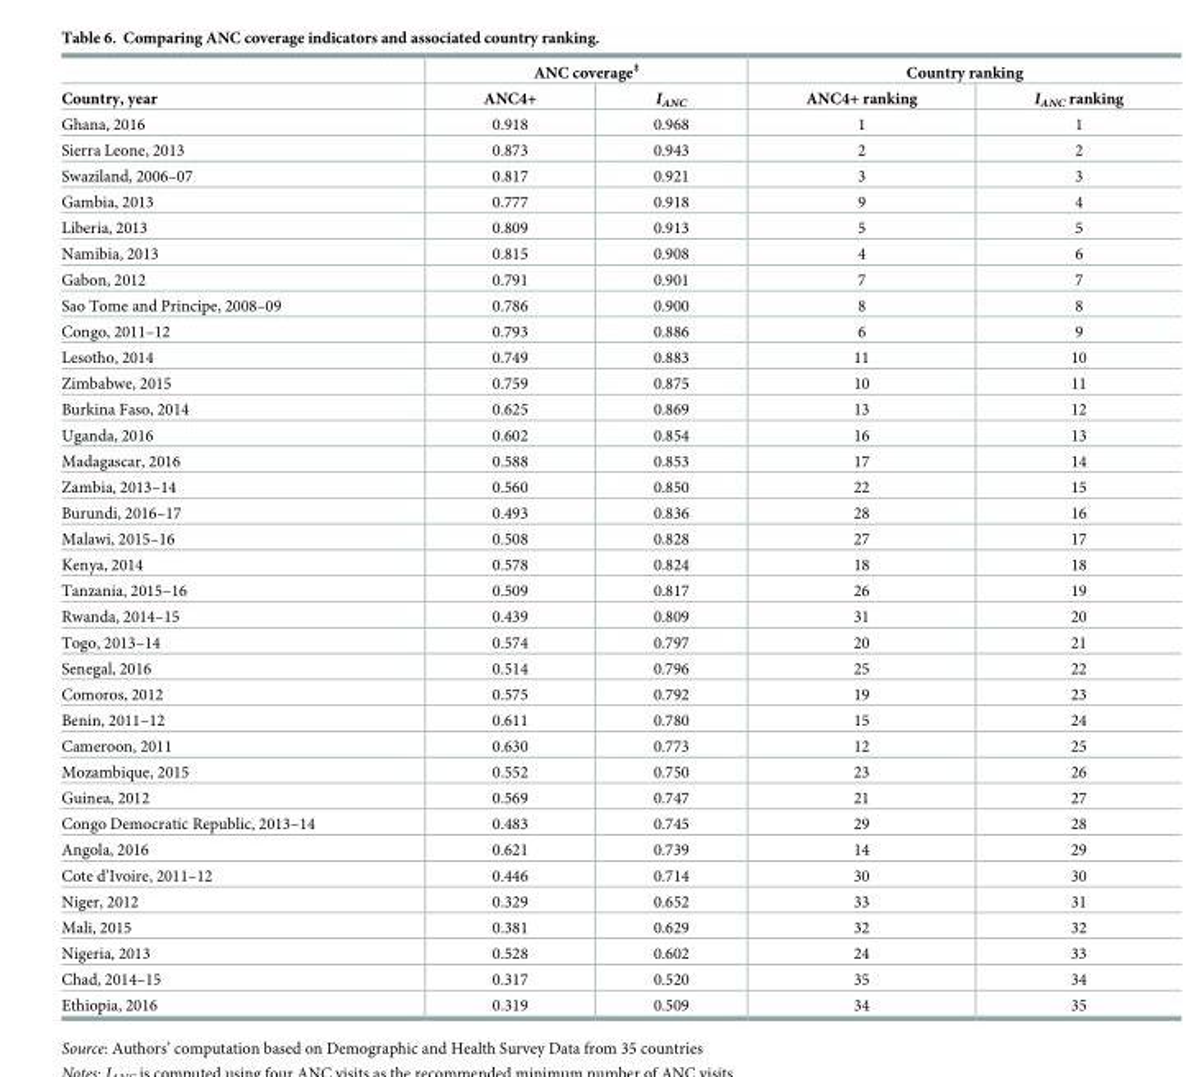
<table><thead><tr><td rowspan="2">Country, year</td><td colspan="2">ANC coverage<sup>‡</sup></td><td colspan="2">Country ranking</td></tr><tr><td>ANC4+</td><td>I<sub>ANC</sub></td><td>ANC4+ ranking</td><td>I<sub>ANC</sub> ranking</td></tr></thead><tbody><tr><td>Ghana, 2016</td><td>0.918</td><td>0.968</td><td>1</td><td>1</td></tr><tr><td>Sierra Leone, 2013</td><td>0.873</td><td>0.943</td><td>2</td><td>2</td></tr><tr><td>Swaziland, 2006–07</td><td>0.817</td><td>0.921</td><td>3</td><td>3</td></tr><tr><td>Gambia, 2013</td><td>0.777</td><td>0.918</td><td>9</td><td>4</td></tr><tr><td>Liberia, 2013</td><td>0.809</td><td>0.913</td><td>5</td><td>5</td></tr><tr><td>Namibia, 2013</td><td>0.815</td><td>0.908</td><td>4</td><td>6</td></tr><tr><td>Gabon, 2012</td><td>0.791</td><td>0.901</td><td>7</td><td>7</td></tr><tr><td>Sao Tome and Principe, 2008–09</td><td>0.786</td><td>0.900</td><td>8</td><td>8</td></tr><tr><td>Congo, 2011–12</td><td>0.793</td><td>0.886</td><td>6</td><td>9</td></tr><tr><td>Lesotho, 2014</td><td>0.749</td><td>0.883</td><td>11</td><td>10</td></tr><tr><td>Zimbabwe, 2015</td><td>0.759</td><td>0.875</td><td>10</td><td>11</td></tr><tr><td>Burkina Faso, 2014</td><td>0.625</td><td>0.869</td><td>13</td><td>12</td></tr><tr><td>Uganda, 2016</td><td>0.602</td><td>0.854</td><td>16</td><td>13</td></tr><tr><td>Madagascar, 2016</td><td>0.588</td><td>0.853</td><td>17</td><td>14</td></tr><tr><td>Zambia, 2013–14</td><td>0.560</td><td>0.850</td><td>22</td><td>15</td></tr><tr><td>Burundi, 2016–17</td><td>0.493</td><td>0.836</td><td>28</td><td>16</td></tr><tr><td>Malawi, 2015–16</td><td>0.508</td><td>0.828</td><td>27</td><td>17</td></tr><tr><td>Kenya, 2014</td><td>0.578</td><td>0.824</td><td>18</td><td>18</td></tr><tr><td>Tanzania, 2015–16</td><td>0.509</td><td>0.817</td><td>26</td><td>19</td></tr><tr><td>Rwanda, 2014–15</td><td>0.439</td><td>0.809</td><td>31</td><td>20</td></tr><tr><td>Togo, 2013–14</td><td>0.574</td><td>0.797</td><td>20</td><td>21</td></tr><tr><td>Senegal, 2016</td><td>0.514</td><td>0.796</td><td>25</td><td>22</td></tr><tr><td>Comoros, 2012</td><td>0.575</td><td>0.792</td><td>19</td><td>23</td></tr><tr><td>Benin, 2011–12</td><td>0.611</td><td>0.780</td><td>15</td><td>24</td></tr><tr><td>Cameroon, 2011</td><td>0.630</td><td>0.773</td><td>12</td><td>25</td></tr><tr><td>Mozambique, 2015</td><td>0.552</td><td>0.750</td><td>23</td><td>26</td></tr><tr><td>Guinea, 2012</td><td>0.569</td><td>0.747</td><td>21</td><td>27</td></tr><tr><td>Congo Democratic Republic, 2013–14</td><td>0.483</td><td>0.745</td><td>29</td><td>28</td></tr><tr><td>Angola, 2016</td><td>0.621</td><td>0.739</td><td>14</td><td>29</td></tr><tr><td>Cote d’Ivoire, 2011–12</td><td>0.446</td><td>0.714</td><td>30</td><td>30</td></tr><tr><td>Niger, 2012</td><td>0.329</td><td>0.652</td><td>33</td><td>31</td></tr><tr><td>Mali, 2015</td><td>0.381</td><td>0.629</td><td>32</td><td>32</td></tr><tr><td>Nigeria, 2013</td><td>0.528</td><td>0.602</td><td>24</td><td>33</td></tr><tr><td>Chad, 2014–15</td><td>0.317</td><td>0.520</td><td>35</td><td>34</td></tr><tr><td>Ethiopia, 2016</td><td>0.319</td><td>0.509</td><td>34</td><td>35</td></tr></tbody></table>